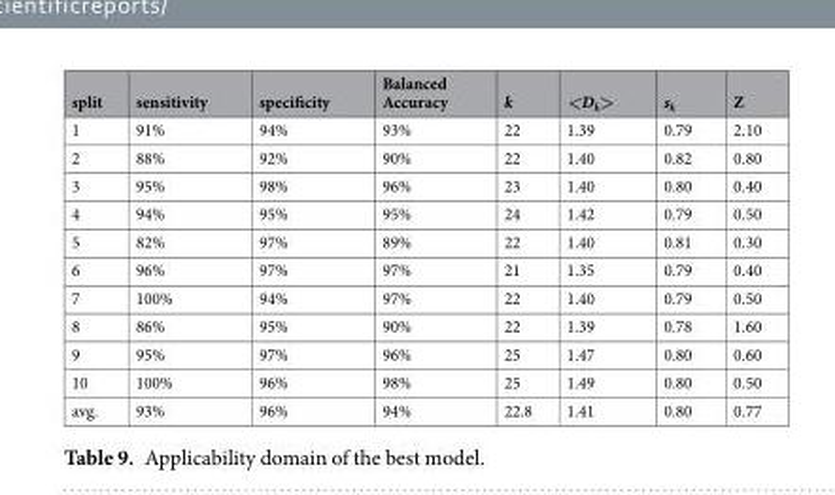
<table><thead><tr><td>split</td><td>sensitivity</td><td>specificity</td><td>Balanced Accuracy</td><td>k</td><td>&lt;D<sub>k</sub>&gt;</td><td>s<sub>k</sub></td><td>Z</td></tr></thead><tbody><tr><td>1</td><td>91%</td><td>94%</td><td>93%</td><td>22</td><td>1.39</td><td>0.79</td><td>2.10</td></tr><tr><td>2</td><td>88%</td><td>92%</td><td>90%</td><td>22</td><td>1.40</td><td>0.82</td><td>0.80</td></tr><tr><td>3</td><td>95%</td><td>98%</td><td>96%</td><td>23</td><td>1.40</td><td>0.80</td><td>0.40</td></tr><tr><td>4</td><td>94%</td><td>95%</td><td>95%</td><td>24</td><td>1.42</td><td>0.79</td><td>0.50</td></tr><tr><td>5</td><td>82%</td><td>97%</td><td>89%</td><td>22</td><td>1.40</td><td>0.81</td><td>0.30</td></tr><tr><td>6</td><td>96%</td><td>97%</td><td>97%</td><td>21</td><td>1.35</td><td>0.79</td><td>0.40</td></tr><tr><td>7</td><td>100%</td><td>94%</td><td>97%</td><td>22</td><td>1.40</td><td>0.79</td><td>0.50</td></tr><tr><td>8</td><td>86%</td><td>95%</td><td>90%</td><td>22</td><td>1.39</td><td>0.78</td><td>1.60</td></tr><tr><td>9</td><td>95%</td><td>97%</td><td>96%</td><td>25</td><td>1.47</td><td>0.80</td><td>0.60</td></tr><tr><td>10</td><td>100%</td><td>96%</td><td>98%</td><td>25</td><td>1.49</td><td>0.80</td><td>0.50</td></tr><tr><td>avg.</td><td>93%</td><td>96%</td><td>94%</td><td>22.8</td><td>1.41</td><td>0.80</td><td>0.77</td></tr></tbody></table>